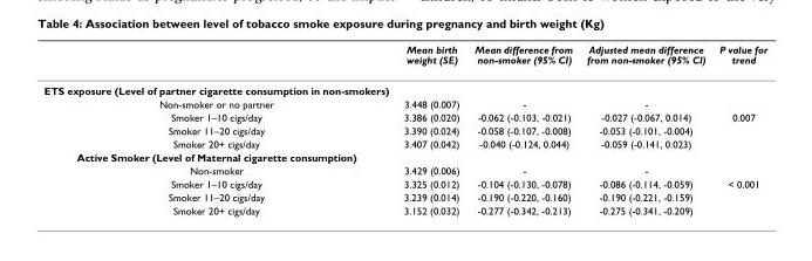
<table><thead><tr><td></td><td>Mean birth weight (SE)</td><td>Mean difference from non-smoker (95% CI)</td><td>Adjusted mean difference from non-smoker (95% CI)</td><td>P value for trend</td></tr></thead><tbody><tr><td colspan="5">ETS exposure (Level of partner cigarette consumption in non-smokers)</td></tr><tr><td>Non-smoker or no partner</td><td>3.448 (0.007)</td><td>-</td><td>-</td><td></td></tr><tr><td>Smoker 1–10 cigs/day</td><td>3.386 (0.020)</td><td>-0.062 (-0.103, -0.021)</td><td>-0.027 (-0.067, 0.014)</td><td>0.007</td></tr><tr><td>Smoker 11–20 cigs/day</td><td>3.390 (0.024)</td><td>-0.058 (-0.107, -0.008)</td><td>-0.053 (-0.101, -0.004)</td><td></td></tr><tr><td>Smoker 20+ cigs/day</td><td>3.407 (0.042)</td><td>-0.040 (-0.124, 0.044)</td><td>-0.059 (-0.141, 0.023)</td><td></td></tr><tr><td colspan="5">Active Smoker (Level of Maternal cigarette consumption)</td></tr><tr><td>Non-smoker</td><td>3.429 (0.006)</td><td>-</td><td>-</td><td></td></tr><tr><td>Smoker 1–10 cigs/day</td><td>3.325 (0.012)</td><td>-0.104 (-0.130, -0.078)</td><td>-0.086 (-0.114, -0.059)</td><td>&lt; 0.001</td></tr><tr><td>Smoker 11–20 cigs/day</td><td>3.239 (0.014)</td><td>-0.190 (-0.220, -0.160)</td><td>-0.190 (-0.221, -0.159)</td><td></td></tr><tr><td>Smoker 20+ cigs/day</td><td>3.152 (0.032)</td><td>-0.277 (-0.342, -0.213)</td><td>-0.275 (-0.341, -0.209)</td><td></td></tr></tbody></table>